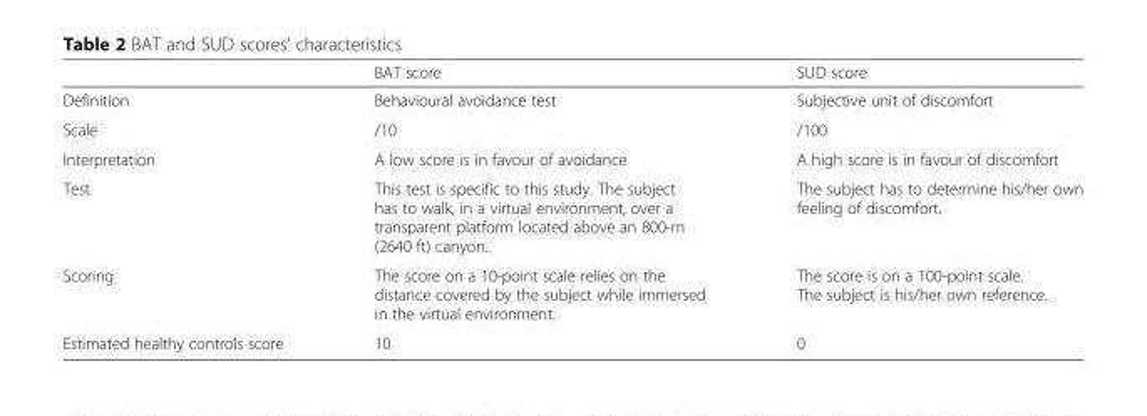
<table><thead><tr><td></td><td>BAT score</td><td>SUD score</td></tr></thead><tbody><tr><td>Definition</td><td>Behavioural avoidance test</td><td>Subjective unit of discomfort</td></tr><tr><td>Scale</td><td>/10</td><td>/100</td></tr><tr><td>Interpretation</td><td>A low score is in favour of avoidance</td><td>A high score is in favour of discomfort</td></tr><tr><td>Test</td><td>This test is specific to this study. The subject has to walk, in a virtual environment, over a transparent platform located above an 800-m (2640 ft) canyon.</td><td>The subject has to determine his/her own feeling of discomfort.</td></tr><tr><td>Scoring</td><td>The score on a 10-point scale relies on the distance covered by the subject while immersed in the virtual environment.</td><td>The score is on a 100-point scale. The subject is his/her own reference.</td></tr><tr><td>Estimated healthy controls score</td><td>10</td><td>0</td></tr></tbody></table>